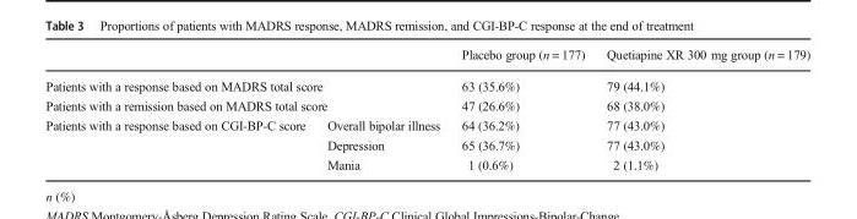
<table><thead><tr><td></td><td></td><td>Placebo group (n = 177)</td><td>Quetiapine XR 300 mg group (n = 179)</td></tr></thead><tbody><tr><td colspan="2">Patients with a response based on MADRS total score</td><td>63 (35.6%)</td><td>79 (44.1%)</td></tr><tr><td colspan="2">Patients with a remission based on MADRS total score</td><td>47 (26.6%)</td><td>68 (38.0%)</td></tr><tr><td rowspan="3">Patients with a response based on CGI-BP-C score</td><td>Overall bipolar illness</td><td>64 (36.2%)</td><td>77 (43.0%)</td></tr><tr><td>Depression</td><td>65 (36.7%)</td><td>77 (43.0%)</td></tr><tr><td>Mania</td><td>1 (0.6%)</td><td>2 (1.1%)</td></tr></tbody></table>